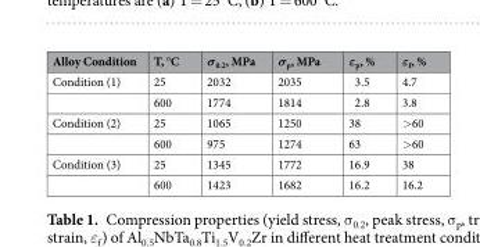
<table><thead><tr><td>Alloy Condition</td><td>T, °C</td><td>σ<sub>0.2</sub>, MPa</td><td>σ<sub>p</sub>, MPa</td><td>ε<sub>p</sub>, %</td><td>ε<sub>f</sub>, %</td></tr></thead><tbody><tr><td rowspan="2">Condition (1)</td><td>25</td><td>2032</td><td>2035</td><td>3.5</td><td>4.7</td></tr><tr><td>600</td><td>1774</td><td>1814</td><td>2.8</td><td>3.8</td></tr><tr><td rowspan="2">Condition (2)</td><td>25</td><td>1065</td><td>1250</td><td>38</td><td>&gt;60</td></tr><tr><td>600</td><td>975</td><td>1274</td><td>63</td><td>&gt;60</td></tr><tr><td rowspan="2">Condition (3)</td><td>25</td><td>1345</td><td>1772</td><td>16.9</td><td>38</td></tr><tr><td>600</td><td>1423</td><td>1682</td><td>16.2</td><td>16.2</td></tr></tbody></table>